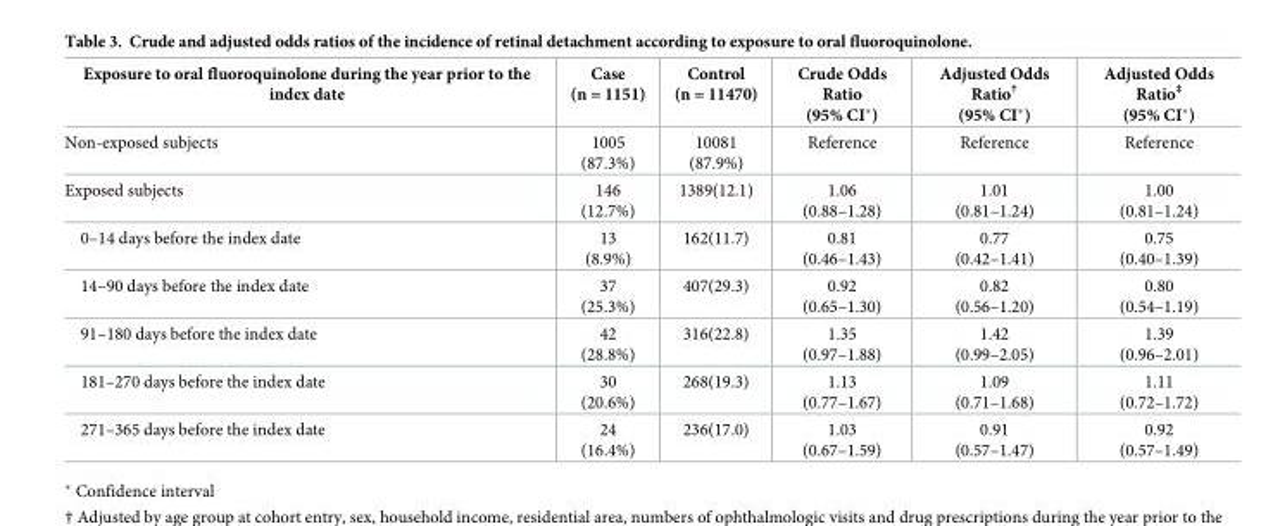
<table><thead><tr><td>Exposure to oral fluoroquinolone during the year prior to the index date</td><td>Case (n = 1151)</td><td>Control (n = 11470)</td><td>Crude Odds Ratio (95% CI*)</td><td>Adjusted Odds Ratio<sup>†</sup> (95% CI*)</td><td>Adjusted Odds Ratio<sup>‡</sup> (95% CI*)</td></tr></thead><tbody><tr><td>Non-exposed subjects</td><td>1005 (87.3%)</td><td>10081 (87.9%)</td><td>Reference</td><td>Reference</td><td>Reference</td></tr><tr><td>Exposed subjects</td><td>146 (12.7%)</td><td>1389(12.1)</td><td>1.06 (0.88–1.28)</td><td>1.01 (0.81–1.24)</td><td>1.00 (0.81–1.24)</td></tr><tr><td>0–14 days before the index date</td><td>13 (8.9%)</td><td>162(11.7)</td><td>0.81 (0.46–1.43)</td><td>0.77 (0.42–1.41)</td><td>0.75 (0.40–1.39)</td></tr><tr><td>14–90 days before the index date</td><td>37 (25.3%)</td><td>407(29.3)</td><td>0.92 (0.65–1.30)</td><td>0.82 (0.56–1.20)</td><td>0.80 (0.54–1.19)</td></tr><tr><td>91–180 days before the index date</td><td>42 (28.8%)</td><td>316(22.8)</td><td>1.35 (0.97–1.88)</td><td>1.42 (0.99–2.05)</td><td>1.39 (0.96–2.01)</td></tr><tr><td>181–270 days before the index date</td><td>30 (20.6%)</td><td>268(19.3)</td><td>1.13 (0.77–1.67)</td><td>1.09 (0.71–1.68)</td><td>1.11 (0.72–1.72)</td></tr><tr><td>271–365 days before the index date</td><td>24 (16.4%)</td><td>236(17.0)</td><td>1.03 (0.67–1.59)</td><td>0.91 (0.57–1.47)</td><td>0.92 (0.57–1.49)</td></tr></tbody></table>